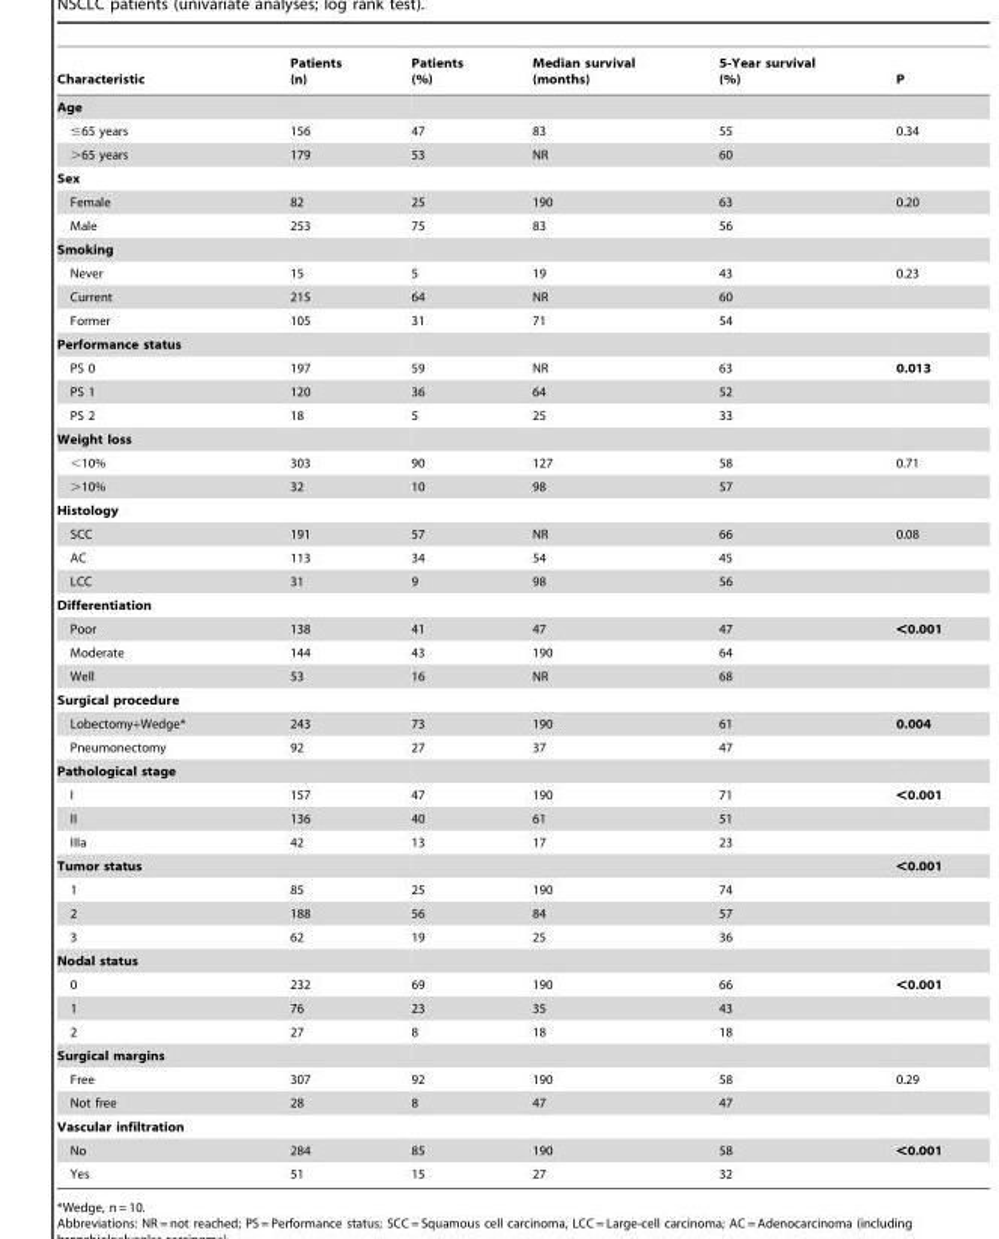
<table><thead><tr><td>Characteristic</td><td>Patients (n)</td><td>Patients (%)</td><td>Median survival (months)</td><td>5-Year survival (%)</td><td>P</td></tr></thead><tbody><tr><td colspan="6">Age</td></tr><tr><td>≤65 years</td><td>156</td><td>47</td><td>83</td><td>55</td><td>0.34</td></tr><tr><td>&gt;65 years</td><td>179</td><td>53</td><td>NR</td><td>60</td><td></td></tr><tr><td colspan="6">Sex</td></tr><tr><td>Female</td><td>82</td><td>25</td><td>190</td><td>63</td><td>0.20</td></tr><tr><td>Male</td><td>253</td><td>75</td><td>83</td><td>56</td><td></td></tr><tr><td colspan="6">Smoking</td></tr><tr><td>Never</td><td>15</td><td>5</td><td>19</td><td>43</td><td>0.23</td></tr><tr><td>Current</td><td>215</td><td>64</td><td>NR</td><td>60</td><td></td></tr><tr><td>Former</td><td>105</td><td>31</td><td>71</td><td>54</td><td></td></tr><tr><td colspan="6">Performance status</td></tr><tr><td>PS 0</td><td>197</td><td>59</td><td>NR</td><td>63</td><td>0.013</td></tr><tr><td>PS 1</td><td>120</td><td>36</td><td>64</td><td>52</td><td></td></tr><tr><td>PS 2</td><td>18</td><td>5</td><td>25</td><td>33</td><td></td></tr><tr><td colspan="6">Weight loss</td></tr><tr><td>&lt;10%</td><td>303</td><td>90</td><td>127</td><td>58</td><td>0.71</td></tr><tr><td>&gt;10%</td><td>32</td><td>10</td><td>98</td><td>57</td><td></td></tr><tr><td colspan="6">Histology</td></tr><tr><td>SCC</td><td>191</td><td>57</td><td>NR</td><td>66</td><td>0.08</td></tr><tr><td>AC</td><td>113</td><td>34</td><td>54</td><td>45</td><td></td></tr><tr><td>LCC</td><td>31</td><td>9</td><td>98</td><td>56</td><td></td></tr><tr><td colspan="6">Differentiation</td></tr><tr><td>Poor</td><td>138</td><td>41</td><td>47</td><td>47</td><td>&lt;0.001</td></tr><tr><td>Moderate</td><td>144</td><td>43</td><td>190</td><td>64</td><td></td></tr><tr><td>Well</td><td>53</td><td>16</td><td>NR</td><td>68</td><td></td></tr><tr><td colspan="6">Surgical procedure</td></tr><tr><td>Lobectomy+Wedge*</td><td>243</td><td>73</td><td>190</td><td>61</td><td>0.004</td></tr><tr><td>Pneumonectomy</td><td>92</td><td>27</td><td>37</td><td>47</td><td></td></tr><tr><td colspan="6">Pathological stage</td></tr><tr><td>I</td><td>157</td><td>47</td><td>190</td><td>71</td><td>&lt;0.001</td></tr><tr><td>II</td><td>136</td><td>40</td><td>61</td><td>51</td><td></td></tr><tr><td>IIIa</td><td>42</td><td>13</td><td>17</td><td>23</td><td></td></tr><tr><td>Tumor status</td><td></td><td></td><td></td><td></td><td>&lt;0.001</td></tr><tr><td>1</td><td>85</td><td>25</td><td>190</td><td>74</td><td></td></tr><tr><td>2</td><td>188</td><td>56</td><td>84</td><td>57</td><td></td></tr><tr><td>3</td><td>62</td><td>19</td><td>25</td><td>36</td><td></td></tr><tr><td colspan="6">Nodal status</td></tr><tr><td>0</td><td>232</td><td>69</td><td>190</td><td>66</td><td>&lt;0.001</td></tr><tr><td>1</td><td>76</td><td>23</td><td>35</td><td>43</td><td></td></tr><tr><td>2</td><td>27</td><td>8</td><td>18</td><td>18</td><td></td></tr><tr><td colspan="6">Surgical margins</td></tr><tr><td>Free</td><td>307</td><td>92</td><td>190</td><td>58</td><td>0.29</td></tr><tr><td>Not free</td><td>28</td><td>8</td><td>47</td><td>47</td><td></td></tr><tr><td colspan="6">Vascular infiltration</td></tr><tr><td>No</td><td>284</td><td>85</td><td>190</td><td>58</td><td>&lt;0.001</td></tr><tr><td>Yes</td><td>51</td><td>15</td><td>27</td><td>32</td><td></td></tr></tbody></table>